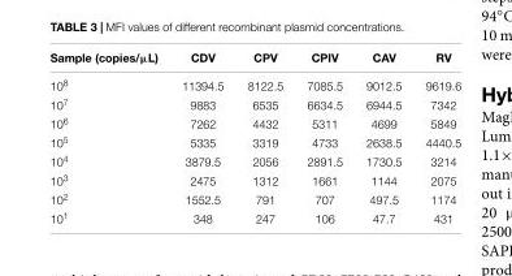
<table><thead><tr><td>Sample (copies/µL)</td><td>CDV</td><td>CPV</td><td>CPIV</td><td>CAV</td><td>RV</td></tr></thead><tbody><tr><td>10<sup>8</sup></td><td>11394.5</td><td>8122.5</td><td>7085.5</td><td>9012.5</td><td>9619.6</td></tr><tr><td>10<sup>7</sup></td><td>9883</td><td>6535</td><td>6634.5</td><td>6944.5</td><td>7342</td></tr><tr><td>10<sup>6</sup></td><td>7262</td><td>4432</td><td>5311</td><td>4699</td><td>5849</td></tr><tr><td>10<sup>5</sup></td><td>5335</td><td>3319</td><td>4733</td><td>2638.5</td><td>4440.5</td></tr><tr><td>10<sup>4</sup></td><td>3879.5</td><td>2056</td><td>2891.5</td><td>1730.5</td><td>3214</td></tr><tr><td>10<sup>3</sup></td><td>2475</td><td>1312</td><td>1661</td><td>1144</td><td>2075</td></tr><tr><td>10<sup>2</sup></td><td>1552.5</td><td>791</td><td>707</td><td>497.5</td><td>1174</td></tr><tr><td>10<sup>1</sup></td><td>348</td><td>247</td><td>106</td><td>47.7</td><td>431</td></tr></tbody></table>